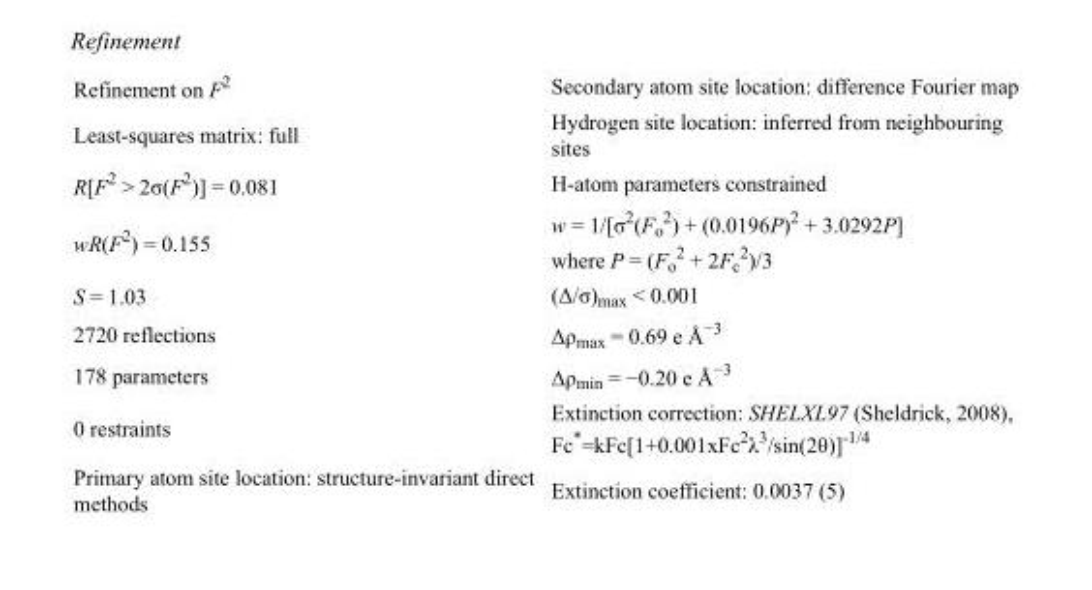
<table><tbody><tr><td>Refinement on F<sup>2</sup></td><td>Secondary atom site location: difference Fourier map</td></tr><tr><td>Least-squares matrix: full</td><td>Hydrogen site location: inferred from neighbouring sites</td></tr><tr><td>R[F<sup>2</sup> &gt; 2σ(F<sup>2</sup>)] = 0.081</td><td>H-atom parameters constrained</td></tr><tr><td>wR(F<sup>2</sup>) = 0.155</td><td>w = 1/[σ<sup>2</sup>(F<sub>o</sub> <sup>2</sup>) + (0.0196P)<sup>2</sup> + 3.0292P] where P = (F<sub>o</sub> <sup>2</sup> + 2F<sub>c</sub> <sup>2</sup>)/3</td></tr><tr><td>S = 1.03</td><td>(Δ/σ)<sub>max</sub> &lt; 0.001</td></tr><tr><td>2720 reflections</td><td>Δρ<sub>max</sub> = 0.69 e Å<sup>−3</sup></td></tr><tr><td>178 parameters</td><td>Δρ<sub>min</sub> = −0.20 e Å<sup>−3</sup></td></tr><tr><td>0 restraints</td><td>Extinction correction: SHELXL97 (Sheldrick, 2008), Fc*=kFc[1+0.001xFc<sup>2</sup>λ<sup>3</sup>/sin(2θ)]<sup>-1/4</sup></td></tr><tr><td>Primary atom site location: structure-invariant direct methods</td><td>Extinction coefficient: 0.0037 (5)</td></tr></tbody></table>